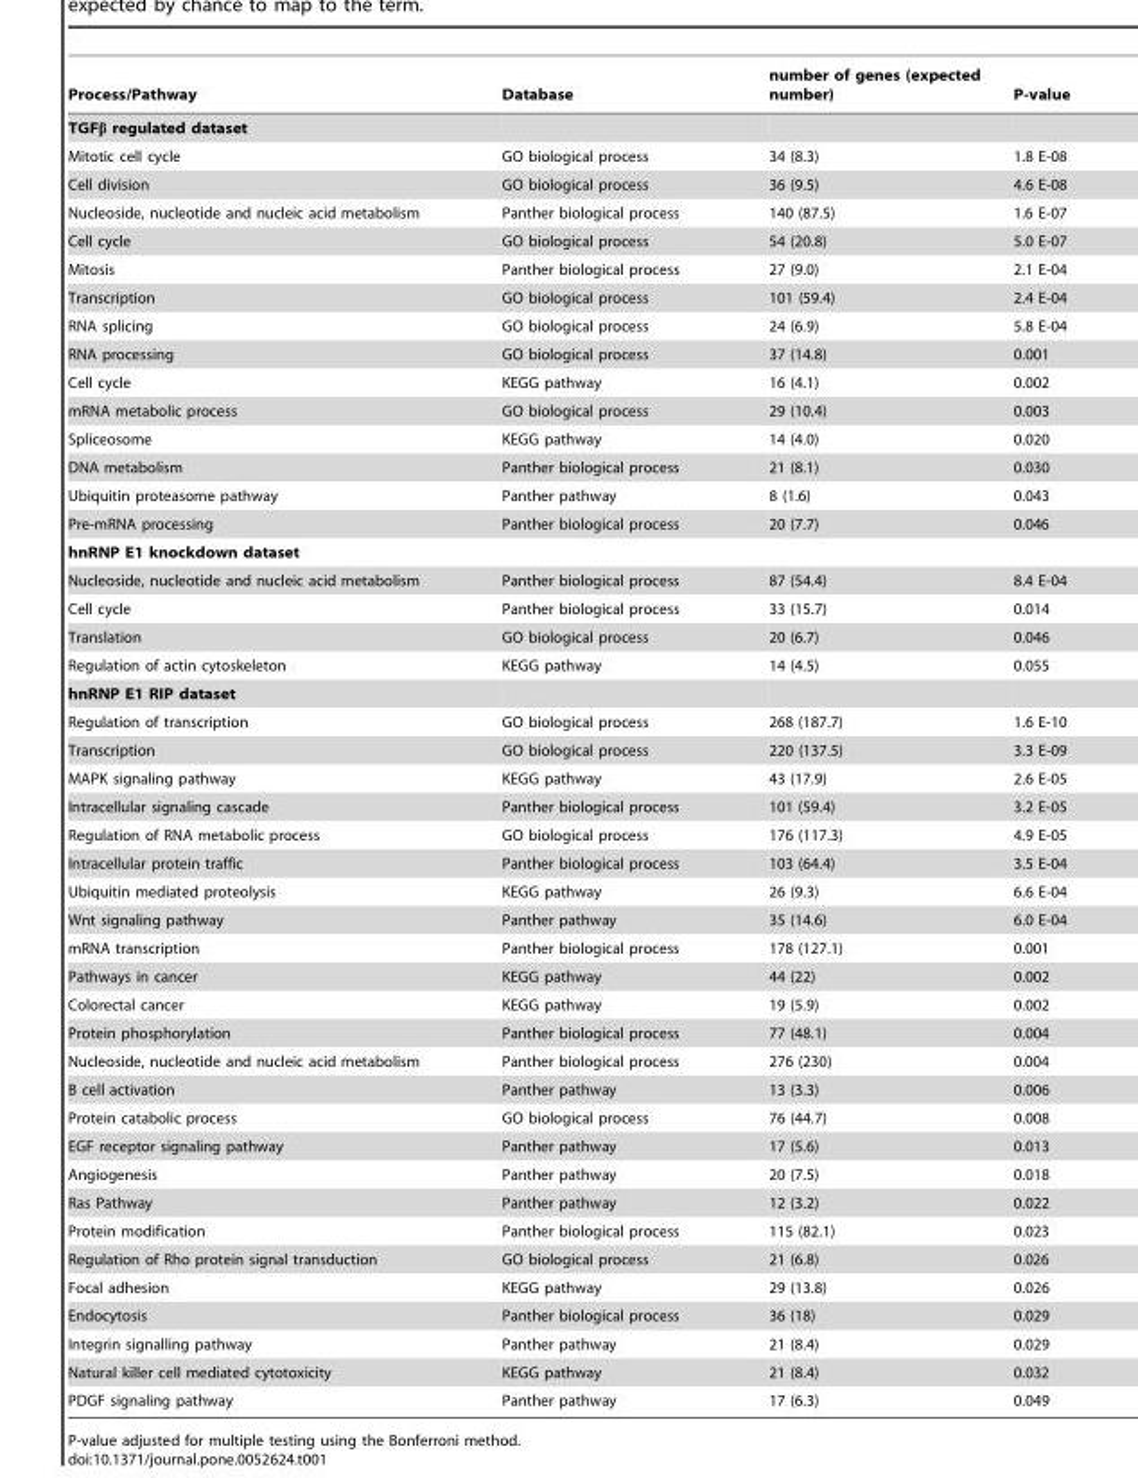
<table><thead><tr><td>Process/Pathway</td><td>Database</td><td>number of genes (expected number)</td><td>P-value</td></tr></thead><tbody><tr><td colspan="4">TGFβ regulated dataset</td></tr><tr><td>Mitotic cell cycle</td><td>GO biological process</td><td>34 (8.3)</td><td>1.8 E-08</td></tr><tr><td>Cell division</td><td>GO biological process</td><td>36 (9.5)</td><td>4.6 E-08</td></tr><tr><td>Nucleoside, nucleotide and nucleic acid metabolism</td><td>Panther biological process</td><td>140 (87.5)</td><td>1.6 E-07</td></tr><tr><td>Cell cycle</td><td>GO biological process</td><td>54 (20.8)</td><td>5.0 E-07</td></tr><tr><td>Mitosis</td><td>Panther biological process</td><td>27 (9.0)</td><td>2.1 E-04</td></tr><tr><td>Transcription</td><td>GO biological process</td><td>101 (59.4)</td><td>2.4 E-04</td></tr><tr><td>RNA splicing</td><td>GO biological process</td><td>24 (6.9)</td><td>5.8 E-04</td></tr><tr><td>RNA processing</td><td>GO biological process</td><td>37 (14.8)</td><td>0.001</td></tr><tr><td>Cell cycle</td><td>KEGG pathway</td><td>16 (4.1)</td><td>0.002</td></tr><tr><td>mRNA metabolic process</td><td>GO biological process</td><td>29 (10.4)</td><td>0.003</td></tr><tr><td>Spliceosome</td><td>KEGG pathway</td><td>14 (4.0)</td><td>0.020</td></tr><tr><td>DNA metabolism</td><td>Panther biological process</td><td>21 (8.1)</td><td>0.030</td></tr><tr><td>Ubiquitin proteasome pathway</td><td>Panther pathway</td><td>8 (1.6)</td><td>0.043</td></tr><tr><td>Pre-mRNA processing</td><td>Panther biological process</td><td>20 (7.7)</td><td>0.046</td></tr><tr><td colspan="4">hnRNP E1 knockdown dataset</td></tr><tr><td>Nucleoside, nucleotide and nucleic acid metabolism</td><td>Panther biological process</td><td>87 (54.4)</td><td>8.4 E-04</td></tr><tr><td>Cell cycle</td><td>Panther biological process</td><td>33 (15.7)</td><td>0.014</td></tr><tr><td>Translation</td><td>GO biological process</td><td>20 (6.7)</td><td>0.046</td></tr><tr><td>Regulation of actin cytoskeleton</td><td>KEGG pathway</td><td>14 (4.5)</td><td>0.055</td></tr><tr><td colspan="4">hnRNP E1 RIP dataset</td></tr><tr><td>Regulation of transcription</td><td>GO biological process</td><td>268 (187.7)</td><td>1.6 E-10</td></tr><tr><td>Transcription</td><td>GO biological process</td><td>220 (137.5)</td><td>3.3 E-09</td></tr><tr><td>MAPK signaling pathway</td><td>KEGG pathway</td><td>43 (17.9)</td><td>2.6 E-05</td></tr><tr><td>Intracellular signaling cascade</td><td>Panther biological process</td><td>101 (59.4)</td><td>3.2 E-05</td></tr><tr><td>Regulation of RNA metabolic process</td><td>GO biological process</td><td>176 (117.3)</td><td>4.9 E-05</td></tr><tr><td>Intracellular protein traffic</td><td>Panther biological process</td><td>103 (64.4)</td><td>3.5 E-04</td></tr><tr><td>Ubiquitin mediated proteolysis</td><td>KEGG pathway</td><td>26 (9.3)</td><td>6.6 E-04</td></tr><tr><td>Wnt signaling pathway</td><td>Panther pathway</td><td>35 (14.6)</td><td>6.0 E-04</td></tr><tr><td>mRNA transcription</td><td>Panther biological process</td><td>178 (127.1)</td><td>0.001</td></tr><tr><td>Pathways in cancer</td><td>KEGG pathway</td><td>44 (22)</td><td>0.002</td></tr><tr><td>Colorectal cancer</td><td>KEGG pathway</td><td>19 (5.9)</td><td>0.002</td></tr><tr><td>Protein phosphorylation</td><td>Panther biological process</td><td>77 (48.1)</td><td>0.004</td></tr><tr><td>Nucleoside, nucleotide and nucleic acid metabolism</td><td>Panther biological process</td><td>276 (230)</td><td>0.004</td></tr><tr><td>B cell activation</td><td>Panther pathway</td><td>13 (3.3)</td><td>0.006</td></tr><tr><td>Protein catabolic process</td><td>GO biological process</td><td>76 (44.7)</td><td>0.008</td></tr><tr><td>EGF receptor signaling pathway</td><td>Panther pathway</td><td>17 (5.6)</td><td>0.013</td></tr><tr><td>Angiogenesis</td><td>Panther pathway</td><td>20 (7.5)</td><td>0.018</td></tr><tr><td>Ras Pathway</td><td>Panther pathway</td><td>12 (3.2)</td><td>0.022</td></tr><tr><td>Protein modification</td><td>Panther biological process</td><td>115 (82.1)</td><td>0.023</td></tr><tr><td>Regulation of Rho protein signal transduction</td><td>GO biological process</td><td>21 (6.8)</td><td>0.026</td></tr><tr><td>Focal adhesion</td><td>KEGG pathway</td><td>29 (13.8)</td><td>0.026</td></tr><tr><td>Endocytosis</td><td>Panther biological process</td><td>36 (18)</td><td>0.029</td></tr><tr><td>Integrin signalling pathway</td><td>Panther pathway</td><td>21 (8.4)</td><td>0.029</td></tr><tr><td>Natural killer cell mediated cytotoxicity</td><td>KEGG pathway</td><td>21 (8.4)</td><td>0.032</td></tr><tr><td>PDGF signaling pathway</td><td>Panther pathway</td><td>17 (6.3)</td><td>0.049</td></tr></tbody></table>